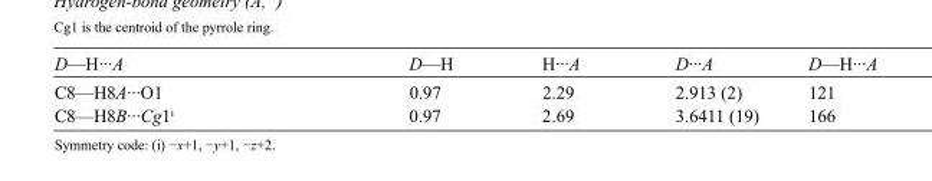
<table><tbody><tr><td>D—H···A</td><td>D—H</td><td>H···A</td><td>D···A</td><td>D—H···A</td></tr><tr><td>C8—H8A···O1</td><td>0.97</td><td>2.29</td><td>2.913 (2)</td><td>121</td></tr><tr><td>C8—H8B···Cg1<sup>i</sup></td><td>0.97</td><td>2.69</td><td>3.6411 (19)</td><td>166</td></tr></tbody></table>